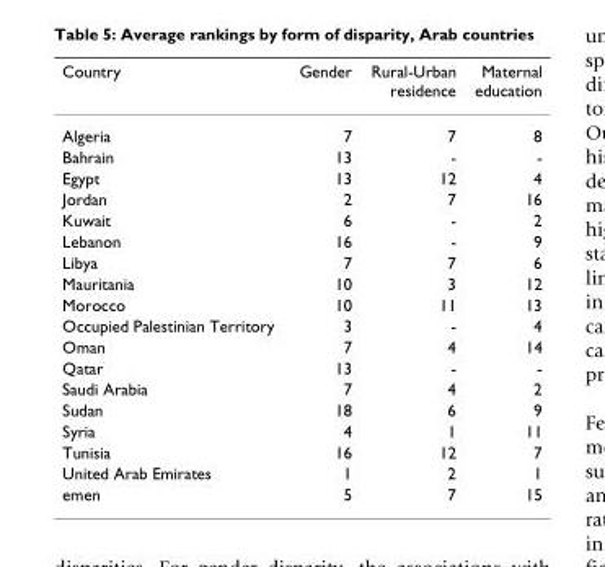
<table><thead><tr><td>Country</td><td>Gender</td><td>Rural-Urban residence</td><td>Maternal education</td></tr></thead><tbody><tr><td>Algeria</td><td>7</td><td>7</td><td>8</td></tr><tr><td>Bahrain</td><td>13</td><td>-</td><td>-</td></tr><tr><td>Egypt</td><td>13</td><td>12</td><td>4</td></tr><tr><td>Jordan</td><td>2</td><td>7</td><td>16</td></tr><tr><td>Kuwait</td><td>6</td><td>-</td><td>2</td></tr><tr><td>Lebanon</td><td>16</td><td>-</td><td>9</td></tr><tr><td>Libya</td><td>7</td><td>7</td><td>6</td></tr><tr><td>Mauritania</td><td>10</td><td>3</td><td>12</td></tr><tr><td>Morocco</td><td>10</td><td>11</td><td>13</td></tr><tr><td>Occupied Palestinian Territory</td><td>3</td><td>-</td><td>4</td></tr><tr><td>Oman</td><td>7</td><td>4</td><td>14</td></tr><tr><td>Qatar</td><td>13</td><td>-</td><td>-</td></tr><tr><td>Saudi Arabia</td><td>7</td><td>4</td><td>2</td></tr><tr><td>Sudan</td><td>18</td><td>6</td><td>9</td></tr><tr><td>Syria</td><td>4</td><td>1</td><td>11</td></tr><tr><td>Tunisia</td><td>16</td><td>12</td><td>7</td></tr><tr><td>United Arab Emirates</td><td>1</td><td>2</td><td>1</td></tr><tr><td>emen</td><td>5</td><td>7</td><td>15</td></tr></tbody></table>